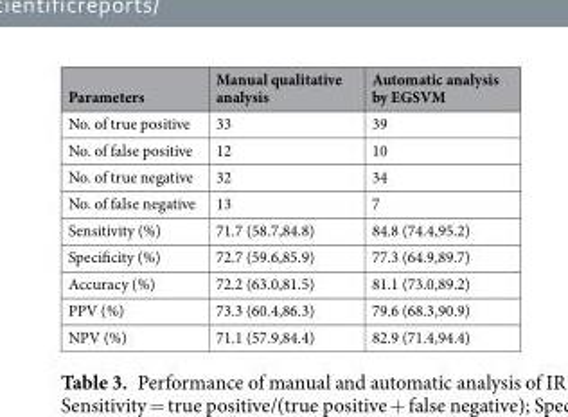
<table><thead><tr><td>Parameters</td><td>Manual qualitative analysis</td><td>Automatic analysis by EGSVM</td></tr></thead><tbody><tr><td>No. of true positive</td><td>33</td><td>39</td></tr><tr><td>No. of false positive</td><td>12</td><td>10</td></tr><tr><td>No. of true negative</td><td>32</td><td>34</td></tr><tr><td>No. of false negative</td><td>13</td><td>7</td></tr><tr><td>Sensitivity (%)</td><td>71.7 (58.7,84.8)</td><td>84.8 (74.4,95.2)</td></tr><tr><td>Specificity (%)</td><td>72.7 (59.6,85.9)</td><td>77.3 (64.9,89.7)</td></tr><tr><td>Accuracy (%)</td><td>72.2 (63.0,81.5)</td><td>81.1 (73.0,89.2)</td></tr><tr><td>PPV (%)</td><td>73.3 (60.4,86.3)</td><td>79.6 (68.3,90.9)</td></tr><tr><td>NPV (%)</td><td>71.1 (57.9,84.4)</td><td>82.9 (71.4,94.4)</td></tr></tbody></table>